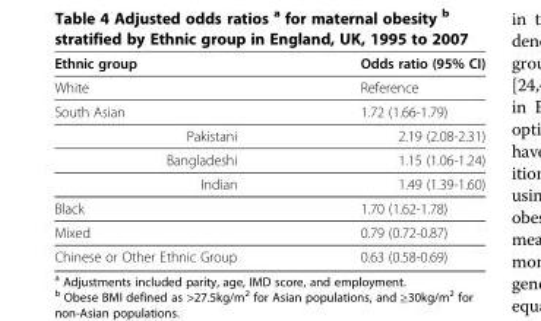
<table><thead><tr><td>Ethnic group</td><td>Odds ratio (95% CI)</td></tr></thead><tbody><tr><td>White</td><td>Reference</td></tr><tr><td>South Asian</td><td>1.72 (1.66-1.79)</td></tr><tr><td>Pakistani</td><td>2.19 (2.08-2.31)</td></tr><tr><td>Bangladeshi</td><td>1.15 (1.06-1.24)</td></tr><tr><td>Indian</td><td>1.49 (1.39-1.60)</td></tr><tr><td>Black</td><td>1.70 (1.62-1.78)</td></tr><tr><td>Mixed</td><td>0.79 (0.72-0.87)</td></tr><tr><td>Chinese or Other Ethnic Group</td><td>0.63 (0.58-0.69)</td></tr></tbody></table>